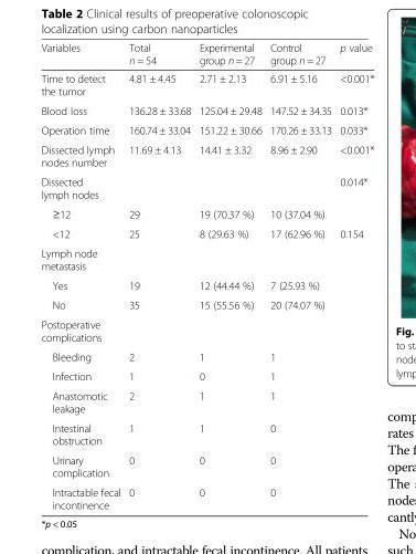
<table><thead><tr><td>Variables</td><td>Total n = 54</td><td>Experimental group n = 27</td><td>Control group n = 27</td><td>p value</td></tr></thead><tbody><tr><td>Time to detect the tumor</td><td>4.81 ± 4.45</td><td>2.71 ± 2.13</td><td>6.91 ± 5.16</td><td>&lt;0.001*</td></tr><tr><td>Blood loss</td><td>136.28 ± 33.68</td><td>125.04 ± 29.48</td><td>147.52 ± 34.35</td><td>0.013*</td></tr><tr><td>Operation time</td><td>160.74 ± 33.04</td><td>151.22 ± 30.66</td><td>170.26 ± 33.13</td><td>0.033*</td></tr><tr><td>Dissected lymph nodes number</td><td>11.69 ± 4.13</td><td>14.41 ± 3.32</td><td>8.96 ± 2.90</td><td>&lt;0.001*</td></tr><tr><td>Dissected lymph nodes</td><td></td><td></td><td></td><td>0.014*</td></tr><tr><td>≥12</td><td>29</td><td>19 (70.37 %)</td><td>10 (37.04 %)</td><td></td></tr><tr><td>&lt;12</td><td>25</td><td>8 (29.63 %)</td><td>17 (62.96 %)</td><td rowspan="11">0.154</td></tr><tr><td colspan="4">Lymph node metastasis</td></tr><tr><td>Yes</td><td>19</td><td>12 (44.44 %)</td><td>7 (25.93 %)</td></tr><tr><td>No</td><td>35</td><td>15 (55.56 %)</td><td>20 (74.07 %)</td></tr><tr><td colspan="4">Postoperative complications</td></tr><tr><td>Bleeding</td><td>2</td><td>1</td><td>1</td></tr><tr><td>Infection</td><td>1</td><td>0</td><td>1</td></tr><tr><td>Anastomotic leakage</td><td>2</td><td>1</td><td>1</td></tr><tr><td>Intestinal obstruction</td><td>1</td><td>1</td><td>0</td></tr><tr><td>Urinary complication</td><td>0</td><td>0</td><td>0</td></tr><tr><td>Intractable fecal incontinence</td><td>0</td><td>0</td><td>0</td></tr></tbody></table>